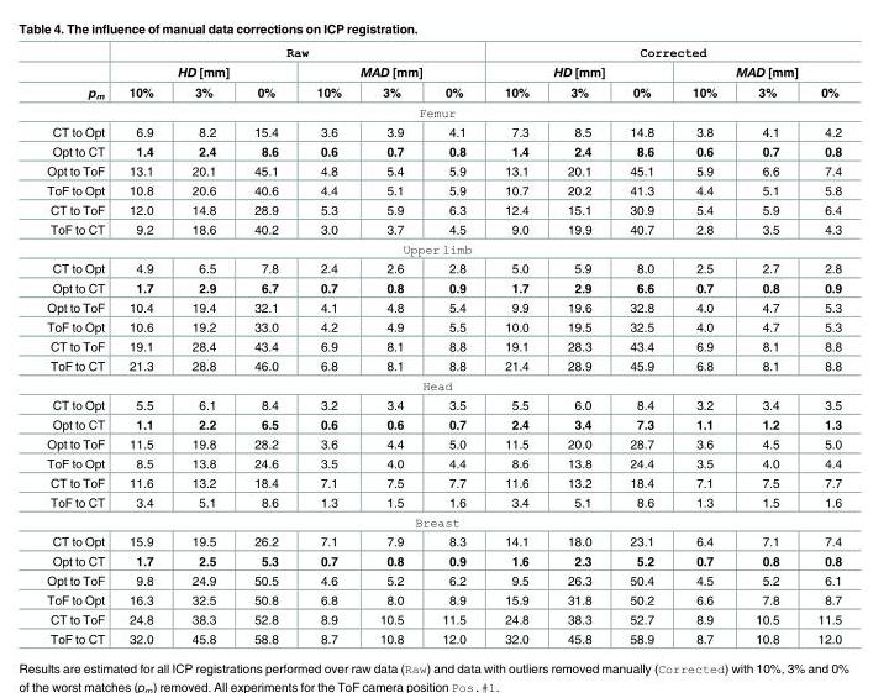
<table><thead><tr><td rowspan="3">p<sub>m</sub></td><td colspan="6">Raw</td><td colspan="6">Corrected</td></tr><tr><td colspan="3">HD [mm]</td><td colspan="3">MAD [mm]</td><td colspan="3">HD [mm]</td><td colspan="3">MAD [mm]</td></tr><tr><td>10%</td><td>3%</td><td>0%</td><td>10%</td><td>3%</td><td>0%</td><td>10%</td><td>3%</td><td>0%</td><td>10%</td><td>3%</td><td>0%</td></tr></thead><tbody><tr><td colspan="13">Femur</td></tr><tr><td>CT to Opt</td><td>6.9</td><td>8.2</td><td>15.4</td><td>3.6</td><td>3.9</td><td>4.1</td><td>7.3</td><td>8.5</td><td>14.8</td><td>3.8</td><td>4.1</td><td>4.2</td></tr><tr><td>Opt to CT</td><td>1.4</td><td>2.4</td><td>8.6</td><td>0.6</td><td>0.7</td><td>0.8</td><td>1.4</td><td>2.4</td><td>8.6</td><td>0.6</td><td>0.7</td><td>0.8</td></tr><tr><td>Opt to ToF</td><td>13.1</td><td>20.1</td><td>45.1</td><td>4.8</td><td>5.4</td><td>5.9</td><td>13.1</td><td>20.1</td><td>45.1</td><td>5.9</td><td>6.6</td><td>7.4</td></tr><tr><td>ToF to Opt</td><td>10.8</td><td>20.6</td><td>40.6</td><td>4.4</td><td>5.1</td><td>5.9</td><td>10.7</td><td>20.2</td><td>41.3</td><td>4.4</td><td>5.1</td><td>5.8</td></tr><tr><td>CT to ToF</td><td>12.0</td><td>14.8</td><td>28.9</td><td>5.3</td><td>5.9</td><td>6.3</td><td>12.4</td><td>15.1</td><td>30.9</td><td>5.4</td><td>5.9</td><td>6.4</td></tr><tr><td>ToF to CT</td><td>9.2</td><td>18.6</td><td>40.2</td><td>3.0</td><td>3.7</td><td>4.5</td><td>9.0</td><td>19.9</td><td>40.7</td><td>2.8</td><td>3.5</td><td>4.3</td></tr><tr><td colspan="13">Upper limb</td></tr><tr><td>CT to Opt</td><td>4.9</td><td>6.5</td><td>7.8</td><td>2.4</td><td>2.6</td><td>2.8</td><td>5.0</td><td>5.9</td><td>8.0</td><td>2.5</td><td>2.7</td><td>2.8</td></tr><tr><td>Opt to CT</td><td>1.7</td><td>2.9</td><td>6.7</td><td>0.7</td><td>0.8</td><td>0.9</td><td>1.7</td><td>2.9</td><td>6.6</td><td>0.7</td><td>0.8</td><td>0.9</td></tr><tr><td>Opt to ToF</td><td>10.4</td><td>19.4</td><td>32.1</td><td>4.1</td><td>4.8</td><td>5.4</td><td>9.9</td><td>19.6</td><td>32.8</td><td>4.0</td><td>4.7</td><td>5.3</td></tr><tr><td>ToF to Opt</td><td>10.6</td><td>19.2</td><td>33.0</td><td>4.2</td><td>4.9</td><td>5.5</td><td>10.0</td><td>19.5</td><td>32.5</td><td>4.0</td><td>4.7</td><td>5.3</td></tr><tr><td>CT to ToF</td><td>19.1</td><td>28.4</td><td>43.4</td><td>6.9</td><td>8.1</td><td>8.8</td><td>19.1</td><td>28.3</td><td>43.4</td><td>6.9</td><td>8.1</td><td>8.8</td></tr><tr><td>ToF to CT</td><td>21.3</td><td>28.8</td><td>46.0</td><td>6.8</td><td>8.1</td><td>8.8</td><td>21.4</td><td>28.9</td><td>45.9</td><td>6.8</td><td>8.1</td><td>8.8</td></tr><tr><td colspan="13">Head</td></tr><tr><td>CT to Opt</td><td>5.5</td><td>6.1</td><td>8.4</td><td>3.2</td><td>3.4</td><td>3.5</td><td>5.5</td><td>6.0</td><td>8.4</td><td>3.2</td><td>3.4</td><td>3.5</td></tr><tr><td>Opt to CT</td><td>1.1</td><td>2.2</td><td>6.5</td><td>0.6</td><td>0.6</td><td>0.7</td><td>2.4</td><td>3.4</td><td>7.3</td><td>1.1</td><td>1.2</td><td>1.3</td></tr><tr><td>Opt to ToF</td><td>11.5</td><td>19.8</td><td>28.2</td><td>3.6</td><td>4.4</td><td>5.0</td><td>11.5</td><td>20.0</td><td>28.7</td><td>3.6</td><td>4.5</td><td>5.0</td></tr><tr><td>ToF to Opt</td><td>8.5</td><td>13.8</td><td>24.6</td><td>3.5</td><td>4.0</td><td>4.4</td><td>8.6</td><td>13.8</td><td>24.4</td><td>3.5</td><td>4.0</td><td>4.4</td></tr><tr><td>CT to ToF</td><td>11.6</td><td>13.2</td><td>18.4</td><td>7.1</td><td>7.5</td><td>7.7</td><td>11.6</td><td>13.2</td><td>18.4</td><td>7.1</td><td>7.5</td><td>7.7</td></tr><tr><td>ToF to CT</td><td>3.4</td><td>5.1</td><td>8.6</td><td>1.3</td><td>1.5</td><td>1.6</td><td>3.4</td><td>5.1</td><td>8.6</td><td>1.3</td><td>1.5</td><td>1.6</td></tr><tr><td colspan="13">Breast</td></tr><tr><td>CT to Opt</td><td>15.9</td><td>19.5</td><td>26.2</td><td>7.1</td><td>7.9</td><td>8.3</td><td>14.1</td><td>18.0</td><td>23.1</td><td>6.4</td><td>7.1</td><td>7.4</td></tr><tr><td>Opt to CT</td><td>1.7</td><td>2.5</td><td>5.3</td><td>0.7</td><td>0.8</td><td>0.9</td><td>1.6</td><td>2.3</td><td>5.2</td><td>0.7</td><td>0.8</td><td>0.8</td></tr><tr><td>Opt to ToF</td><td>9.8</td><td>24.9</td><td>50.5</td><td>4.6</td><td>5.2</td><td>6.2</td><td>9.5</td><td>26.3</td><td>50.4</td><td>4.5</td><td>5.2</td><td>6.1</td></tr><tr><td>ToF to Opt</td><td>16.3</td><td>32.5</td><td>50.8</td><td>6.8</td><td>8.0</td><td>8.9</td><td>15.9</td><td>31.8</td><td>50.2</td><td>6.6</td><td>7.8</td><td>8.7</td></tr><tr><td>CT to ToF</td><td>24.8</td><td>38.3</td><td>52.8</td><td>8.9</td><td>10.5</td><td>11.5</td><td>24.8</td><td>38.3</td><td>52.7</td><td>8.9</td><td>10.5</td><td>11.5</td></tr><tr><td>ToF to CT</td><td>32.0</td><td>45.8</td><td>58.8</td><td>8.7</td><td>10.8</td><td>12.0</td><td>32.0</td><td>45.8</td><td>58.9</td><td>8.7</td><td>10.8</td><td>12.0</td></tr></tbody></table>